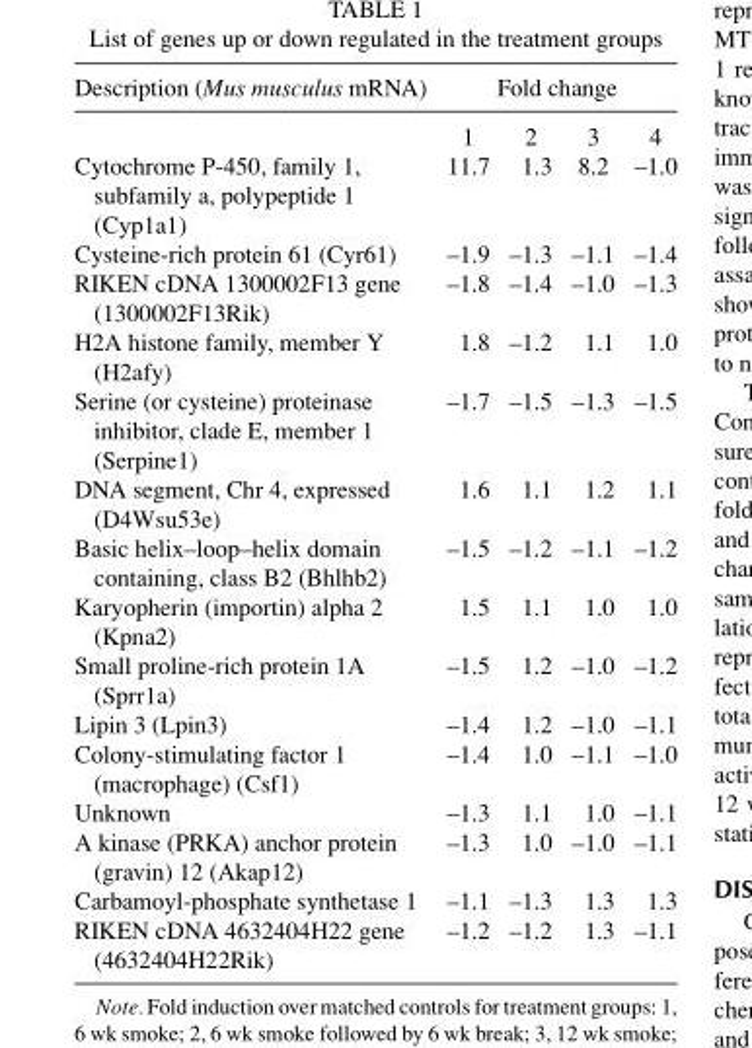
<table><thead><tr><td rowspan="2">Description (Mus musculus mRNA)</td><td colspan="4">Fold change</td></tr><tr><td>1</td><td>2</td><td>3</td><td>4</td></tr></thead><tbody><tr><td>Cytochrome P-450, family 1, subfamily a, polypeptide 1 (Cyp1a1)</td><td>11.7</td><td>1.3</td><td>8.2</td><td>–1.0</td></tr><tr><td>Cysteine-rich protein 61 (Cyr61)</td><td>–1.9</td><td>–1.3</td><td>–1.1</td><td>–1.4</td></tr><tr><td>RIKEN cDNA 1300002F13 gene (1300002F13Rik)</td><td>–1.8</td><td>–1.4</td><td>–1.0</td><td>–1.3</td></tr><tr><td>H2A histone family, member Y (H2afy)</td><td>1.8</td><td>–1.2</td><td>1.1</td><td>1.0</td></tr><tr><td>Serine (or cysteine) proteinase inhibitor, clade E, member 1 (Serpine1)</td><td>–1.7</td><td>–1.5</td><td>–1.3</td><td>–1.5</td></tr><tr><td>DNA segment, Chr 4, expressed (D4Wsu53e)</td><td>1.6</td><td>1.1</td><td>1.2</td><td>1.1</td></tr><tr><td>Basic helix–loop–helix domain containing, class B2 (Bhlhb2)</td><td>–1.5</td><td>–1.2</td><td>–1.1</td><td>–1.2</td></tr><tr><td>Karyopherin (importin) alpha 2 (Kpna2)</td><td>1.5</td><td>1.1</td><td>1.0</td><td>1.0</td></tr><tr><td>Small proline-rich protein 1A (Sprr1a)</td><td>–1.5</td><td>1.2</td><td>–1.0</td><td>–1.2</td></tr><tr><td>Lipin 3 (Lpin3)</td><td>–1.4</td><td>1.2</td><td>–1.0</td><td>–1.1</td></tr><tr><td>Colony-stimulating factor 1 (macrophage) (Csf1)</td><td>–1.4</td><td>1.0</td><td>–1.1</td><td>–1.0</td></tr><tr><td>Unknown</td><td>–1.3</td><td>1.1</td><td>1.0</td><td>–1.1</td></tr><tr><td>A kinase (PRKA) anchor protein (gravin) 12 (Akap12)</td><td>–1.3</td><td>1.0</td><td>–1.0</td><td>–1.1</td></tr><tr><td>Carbamoyl-phosphate synthetase 1</td><td>–1.1</td><td>–1.3</td><td>1.3</td><td>1.3</td></tr><tr><td>RIKEN cDNA 4632404H22 gene (4632404H22Rik)</td><td>–1.2</td><td>–1.2</td><td>1.3</td><td>–1.1</td></tr></tbody></table>